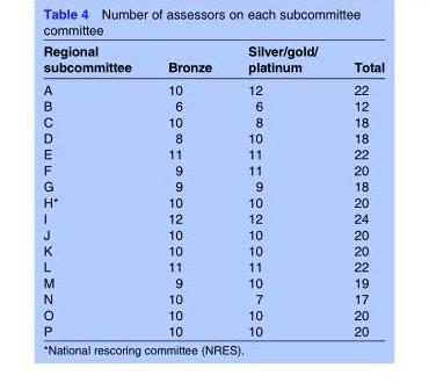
<table><thead><tr><td>Regional subcommittee</td><td>Bronze</td><td>Silver/gold/ platinum</td><td>Total</td></tr></thead><tbody><tr><td>A</td><td>10</td><td>12</td><td>22</td></tr><tr><td>B</td><td>6</td><td>6</td><td>12</td></tr><tr><td>C</td><td>10</td><td>8</td><td>18</td></tr><tr><td>D</td><td>8</td><td>10</td><td>18</td></tr><tr><td>E</td><td>11</td><td>11</td><td>22</td></tr><tr><td>F</td><td>9</td><td>11</td><td>20</td></tr><tr><td>G</td><td>9</td><td>9</td><td>18</td></tr><tr><td>H*</td><td>10</td><td>10</td><td>20</td></tr><tr><td>I</td><td>12</td><td>12</td><td>24</td></tr><tr><td>J</td><td>10</td><td>10</td><td>20</td></tr><tr><td>K</td><td>10</td><td>10</td><td>20</td></tr><tr><td>L</td><td>11</td><td>11</td><td>22</td></tr><tr><td>M</td><td>9</td><td>10</td><td>19</td></tr><tr><td>N</td><td>10</td><td>7</td><td>17</td></tr><tr><td>O</td><td>10</td><td>10</td><td>20</td></tr><tr><td>P</td><td>10</td><td>10</td><td>20</td></tr></tbody></table>